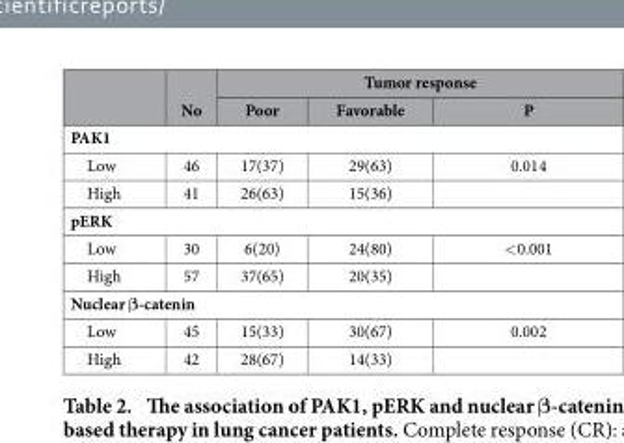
<table><thead><tr><td rowspan="2"></td><td rowspan="2">No</td><td colspan="3">Tumor response</td></tr><tr><td>Poor</td><td>Favorable</td><td>P</td></tr></thead><tbody><tr><td colspan="5">PAK1</td></tr><tr><td>Low</td><td>46</td><td>17(37)</td><td>29(63)</td><td>0.014</td></tr><tr><td>High</td><td>41</td><td>26(63)</td><td>15(36)</td><td></td></tr><tr><td colspan="5">pERK</td></tr><tr><td>Low</td><td>30</td><td>6(20)</td><td>24(80)</td><td>&lt; 0.001</td></tr><tr><td>High</td><td>57</td><td>37(65)</td><td>20(35)</td><td></td></tr><tr><td colspan="5">Nuclear β-catenin</td></tr><tr><td>Low</td><td>45</td><td>15(33)</td><td>30(67)</td><td>0.002</td></tr><tr><td>High</td><td>42</td><td>28(67)</td><td>14(33)</td><td></td></tr></tbody></table>